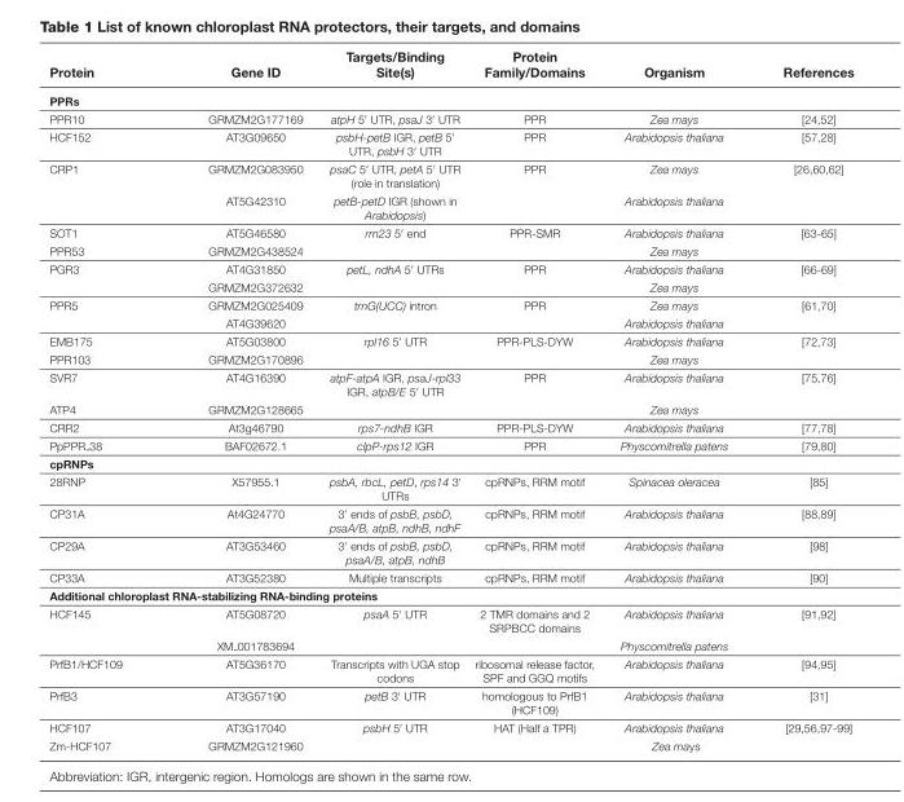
<table><thead><tr><td>Protein</td><td>Gene ID</td><td>Targets/Binding Site(s)</td><td>Protein Family/Domains</td><td>Organism</td><td>References</td></tr></thead><tbody><tr><td colspan="6">PPRs</td></tr><tr><td>PPR10</td><td>GRMZM2G177169</td><td>atpH 5′ UTR, psaJ 3′ UTR</td><td>PPR</td><td>Zea mays</td><td>[24,52]</td></tr><tr><td>HCF152</td><td>AT3G09650</td><td>psbH-petB IGR, petB 5′ UTR, psbH 3′ UTR</td><td>PPR</td><td>Arabidopsis thaliana</td><td>[57,28]</td></tr><tr><td rowspan="2">CRP1</td><td>GRMZM2G083950</td><td>psaC 5′ UTR, petA 5′ UTR (role in translation)</td><td>PPR</td><td>Zea mays</td><td>[26,60,62]</td></tr><tr><td>AT5G42310</td><td>petB-petD IGR (shown in Arabidopsis)</td><td></td><td>Arabidopsis thaliana</td><td></td></tr><tr><td>SOT1</td><td>AT5G46580</td><td>rrn23 5′ end</td><td>PPR-SMR</td><td>Arabidopsis thaliana</td><td>[63-65]</td></tr><tr><td>PPR53</td><td>GRMZM2G438524</td><td></td><td></td><td>Zea mays</td><td></td></tr><tr><td rowspan="2">PGR3</td><td>AT4G31850</td><td>petL, ndhA 5′ UTRs</td><td>PPR</td><td>Arabidopsis thaliana</td><td>[66-69]</td></tr><tr><td>GRMZM2G372632</td><td></td><td></td><td>Zea mays</td><td></td></tr><tr><td rowspan="2">PPR5</td><td>GRMZM2G025409</td><td>trnG(UCC) intron</td><td>PPR</td><td>Zea mays</td><td>[61,70]</td></tr><tr><td>AT4G39620</td><td></td><td></td><td>Arabidopsis thaliana</td><td></td></tr><tr><td>EMB175</td><td>AT5G03800</td><td>rpl16 5′ UTR</td><td>PPR-PLS-DYW</td><td>Arabidopsis thaliana</td><td>[72,73]</td></tr><tr><td>PPR103</td><td>GRMZM2G170896</td><td></td><td></td><td>Zea mays</td><td></td></tr><tr><td>SVR7</td><td>AT4G16390</td><td>atpF-atpA IGR, psaJ-rpl33 IGR, atpB/E 5′ UTR</td><td>PPR</td><td>Arabidopsis thaliana</td><td>[75,76]</td></tr><tr><td>ATP4</td><td>GRMZM2G128665</td><td></td><td></td><td>Zea mays</td><td></td></tr><tr><td>CRR2</td><td>At3g46790</td><td>rps7-ndhB IGR</td><td>PPR-PLS-DYW</td><td>Arabidopsis thaliana</td><td>[77,78]</td></tr><tr><td>PpPPR 38</td><td>BAF02672.1</td><td>clpP-rps12 IGR</td><td>PPR</td><td>Physcomitrella patens</td><td>[79,80]</td></tr><tr><td colspan="6">cpRNPs</td></tr><tr><td>28RNP</td><td>X57955.1</td><td>psbA, rbcL, petD, rps14 3′ UTRs</td><td>cpRNPs, RRM motif</td><td>Spinacea oleracea</td><td>[85]</td></tr><tr><td>CP31A</td><td>At4G24770</td><td>3′ ends of psbB, psbD, psaA/B, atpB, ndhB, ndhF</td><td>cpRNPs, RRM motif</td><td>Arabidopsis thaliana</td><td>[88,89]</td></tr><tr><td>CP29A</td><td>AT3G53460</td><td>3′ ends of psbB, psbD, psaA/B, atpB, ndhB</td><td>cpRNPs, RRM motif</td><td>Arabidopsis thaliana</td><td>[98]</td></tr><tr><td>CP33A</td><td>AT3G52380</td><td>Multiple transcripts</td><td>cpRNPs, RRM motif</td><td>Arabidopsis thaliana</td><td>[90]</td></tr><tr><td colspan="6">Additional chloroplast RNA-stabilizing RNA-binding proteins</td></tr><tr><td rowspan="2">HCF145</td><td>AT5G08720</td><td>psaA 5′ UTR</td><td>2 TMR domains and 2 SRPBCC domains</td><td>Arabidopsis thaliana</td><td>[91,92]</td></tr><tr><td>XM 001783694</td><td></td><td></td><td>Physcomitrella patens</td><td></td></tr><tr><td>PrfB1/HCF109</td><td>AT5G36170</td><td>Transcripts with UGA stop codons</td><td>ribosomal release factor, SPF and GGQ motifs</td><td>Arabidopsis thaliana</td><td>[94,95]</td></tr><tr><td>PrfB3</td><td>AT3G57190</td><td>petB 3′ UTR</td><td>homologous to PrfB1 (HCF109)</td><td>Arabidopsis thaliana</td><td>[31]</td></tr><tr><td>HCF107</td><td>AT3G17040</td><td>psbH 5′ UTR</td><td>HAT (Half a TPR)</td><td>Arabidopsis thaliana</td><td>[29,56,97-99]</td></tr><tr><td>Zm-HCF107</td><td>GRMZM2G121960</td><td></td><td></td><td>Zea mays</td><td></td></tr></tbody></table>